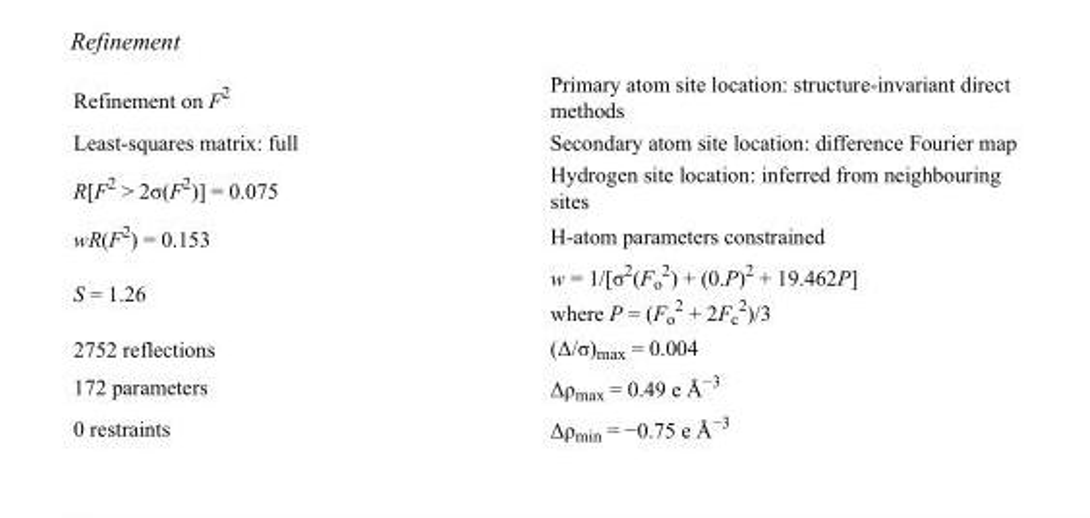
<table><tbody><tr><td>Refinement on F<sup>2</sup></td><td>Primary atom site location: structure-invariant direct methods</td></tr><tr><td>Least-squares matrix: full</td><td>Secondary atom site location: difference Fourier map</td></tr><tr><td>R[F<sup>2</sup> &gt; 2σ(F<sup>2</sup>)] = 0.075</td><td>Hydrogen site location: inferred from neighbouring sites</td></tr><tr><td>wR(F<sup>2</sup>) = 0.153</td><td>H-atom parameters constrained</td></tr><tr><td>S = 1.26</td><td>w = 1/[σ<sup>2</sup>(F<sub>o</sub> <sup>2</sup>) + (0.P)<sup>2</sup> + 19.462P] where P = (F<sub>o</sub> <sup>2</sup> + 2F<sub>c</sub> <sup>2</sup>)/3</td></tr><tr><td>2752 reflections</td><td>(Δ/σ)<sub>max</sub> = 0.004</td></tr><tr><td>172 parameters</td><td>Δρ<sub>max</sub> = 0.49 e Å<sup>−3</sup></td></tr><tr><td>0 restraints</td><td>Δρ<sub>min</sub> = −0.75 e Å<sup>−3</sup></td></tr></tbody></table>